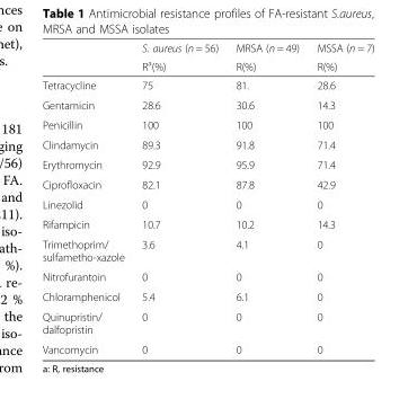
<table><thead><tr><td rowspan="2"></td><td rowspan="2">S. aureus (n = 56) R<sup>a</sup>(%)</td><td rowspan="2">MRSA (n = 49) R(%)</td><td rowspan="2">MSSA (n = 7) R(%)</td></tr><tr></tr></thead><tbody><tr><td>Tetracycline</td><td>75</td><td>81.</td><td>28.6</td></tr><tr><td>Gentamicin</td><td>28.6</td><td>30.6</td><td>14.3</td></tr><tr><td>Penicillin</td><td>100</td><td>100</td><td>100</td></tr><tr><td>Clindamycin</td><td>89.3</td><td>91.8</td><td>71.4</td></tr><tr><td>Erythromycin</td><td>92.9</td><td>95.9</td><td>71.4</td></tr><tr><td>Ciprofloxacin</td><td>82.1</td><td>87.8</td><td>42.9</td></tr><tr><td>Linezolid</td><td>0</td><td>0</td><td>0</td></tr><tr><td>Rifampicin</td><td>10.7</td><td>10.2</td><td>14.3</td></tr><tr><td>Trimethoprim/ sulfametho-xazole</td><td>3.6</td><td>4.1</td><td>0</td></tr><tr><td>Nitrofurantoin</td><td>0</td><td>0</td><td>0</td></tr><tr><td>Chloramphenicol</td><td>5.4</td><td>6.1</td><td>0</td></tr><tr><td>Quinupristin/ dalfopristin</td><td>0</td><td>0</td><td>0</td></tr><tr><td>Vancomycin</td><td>0</td><td>0</td><td>0</td></tr></tbody></table>